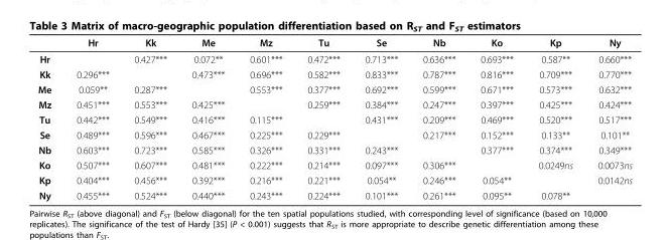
<table><thead><tr><td></td><td>Hr</td><td>Kk</td><td>Me</td><td>Mz</td><td>Tu</td><td>Se</td><td>Nb</td><td>Ko</td><td>Kp</td><td>Ny</td></tr></thead><tbody><tr><td>Hr</td><td></td><td>0.427***</td><td>0.072**</td><td>0.601***</td><td>0.472***</td><td>0.713***</td><td>0.636***</td><td>0.693***</td><td>0.587**</td><td>0.660***</td></tr><tr><td>Kk</td><td>0.296***</td><td></td><td>0.473***</td><td>0.696***</td><td>0.582***</td><td>0.833***</td><td>0.787***</td><td>0.816***</td><td>0.709***</td><td>0.770***</td></tr><tr><td>Me</td><td>0.059**</td><td>0.287***</td><td></td><td>0.553***</td><td>0.377***</td><td>0.692***</td><td>0.599***</td><td>0.671***</td><td>0.573***</td><td>0.632***</td></tr><tr><td>Mz</td><td>0.451***</td><td>0.553***</td><td>0.425***</td><td></td><td>0.259***</td><td>0.384***</td><td>0.247***</td><td>0.397***</td><td>0.425***</td><td>0.424***</td></tr><tr><td>Tu</td><td>0.442***</td><td>0.549***</td><td>0.416***</td><td>0.115***</td><td></td><td>0.431***</td><td>0.209***</td><td>0.469***</td><td>0.520***</td><td>0.517***</td></tr><tr><td>Se</td><td>0.489***</td><td>0.596***</td><td>0.467***</td><td>0.225***</td><td>0.229***</td><td></td><td>0.217***</td><td>0.152***</td><td>0.133**</td><td>0.101**</td></tr><tr><td>Nb</td><td>0.603***</td><td>0.723***</td><td>0.585***</td><td>0.326***</td><td>0.331***</td><td>0.243***</td><td></td><td>0.377***</td><td>0.374***</td><td>0.349***</td></tr><tr><td>Ko</td><td>0.507***</td><td>0.607***</td><td>0.481***</td><td>0.222***</td><td>0.214***</td><td>0.097***</td><td>0.306***</td><td></td><td>0.0249ns</td><td>0.0073ns</td></tr><tr><td>Kp</td><td>0.404***</td><td>0.456***</td><td>0.392***</td><td>0.216***</td><td>0.221***</td><td>0.054**</td><td>0.246***</td><td>0.054**</td><td></td><td>0.0142ns</td></tr><tr><td>Ny</td><td>0.455***</td><td>0.524***</td><td>0.440***</td><td>0.243***</td><td>0.224***</td><td>0.101***</td><td>0.261***</td><td>0.095**</td><td>0.078**</td><td></td></tr></tbody></table>